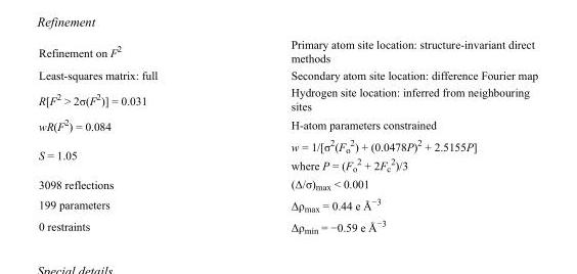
<table><tbody><tr><td>Refinement on F<sup>2</sup></td><td>Primary atom site location: structure-invariant direct methods</td></tr><tr><td>Least-squares matrix: full</td><td>Secondary atom site location: difference Fourier map</td></tr><tr><td>R[F<sup>2</sup> &gt; 2σ(F<sup>2</sup>)] = 0.031</td><td>Hydrogen site location: inferred from neighbouring sites</td></tr><tr><td>wR(F<sup>2</sup>) = 0.084</td><td>H-atom parameters constrained</td></tr><tr><td>S = 1.05</td><td>w = 1/[σ<sup>2</sup>(F<sub>o</sub> <sup>2</sup>) + (0.0478P)<sup>2</sup> + 2.5155P] where P = (F<sub>o</sub> <sup>2</sup> + 2F<sub>c</sub> <sup>2</sup>)/3</td></tr><tr><td>3098 reflections</td><td>(Δ/σ)<sub>max</sub> &lt; 0.001</td></tr><tr><td>199 parameters</td><td>Δρ<sub>max</sub> = 0.44 e Å<sup>−3</sup></td></tr><tr><td>0 restraints</td><td>Δρ<sub>min</sub> = −0.59 e Å<sup>−3</sup></td></tr></tbody></table>